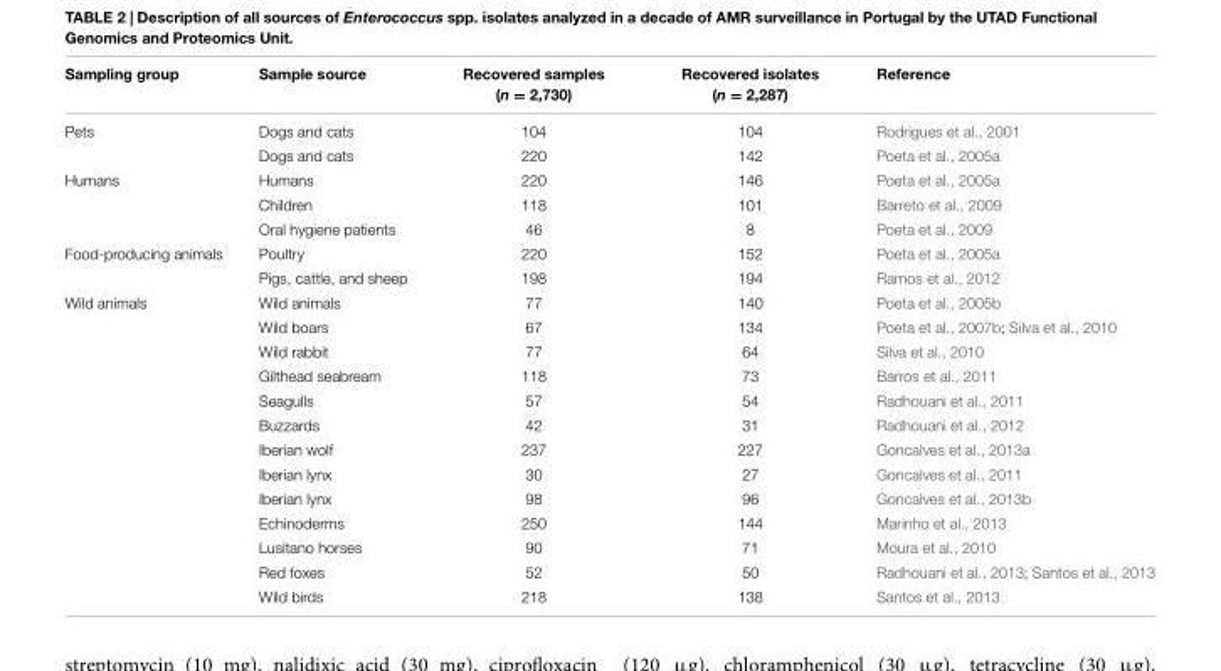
<table><thead><tr><td>Sampling group</td><td>Sample source</td><td>Recovered samples (n = 2,730)</td><td>Recovered isolates (n = 2,287)</td><td>Reference</td></tr></thead><tbody><tr><td rowspan="2">Pets</td><td>Dogs and cats</td><td>104</td><td>104</td><td>Rodrigues et al., 2001</td></tr><tr><td>Dogs and cats</td><td>220</td><td>142</td><td>Poeta et al., 2005a</td></tr><tr><td rowspan="3">Humans</td><td>Humans</td><td>220</td><td>146</td><td>Poeta et al., 2005a</td></tr><tr><td>Children</td><td>118</td><td>101</td><td>Barreto et al., 2009</td></tr><tr><td>Oral hygiene patients</td><td>46</td><td>8</td><td>Poeta et al., 2009</td></tr><tr><td rowspan="2">Food-producing animals</td><td>Poultry</td><td>220</td><td>152</td><td>Poeta et al., 2005a</td></tr><tr><td>Pigs, cattle, and sheep</td><td>198</td><td>194</td><td>Ramos et al., 2012</td></tr><tr><td rowspan="13">Wild animals</td><td>Wild animals</td><td>77</td><td>140</td><td>Poeta et al., 2005b</td></tr><tr><td>Wild boars</td><td>67</td><td>134</td><td>Poeta et al., 2007b; Silva et al., 2010</td></tr><tr><td>Wild rabbit</td><td>77</td><td>64</td><td>Silva et al., 2010</td></tr><tr><td>Gilthead seabream</td><td>118</td><td>73</td><td>Barros et al., 2011</td></tr><tr><td>Seagulls</td><td>57</td><td>54</td><td>Radhouani et al., 2011</td></tr><tr><td>Buzzards</td><td>42</td><td>31</td><td>Radhouani et al., 2012</td></tr><tr><td>Iberian wolf</td><td>237</td><td>227</td><td>Goncalves et al., 2013a</td></tr><tr><td>Iberian lynx</td><td>30</td><td>27</td><td>Goncalves et al., 2011</td></tr><tr><td>Iberian lynx</td><td>98</td><td>96</td><td>Goncalves et al., 2013b</td></tr><tr><td>Echinoderms</td><td>250</td><td>144</td><td>Marinho et al., 2013</td></tr><tr><td>Lusitano horses</td><td>90</td><td>71</td><td>Moura et al., 2010</td></tr><tr><td>Red foxes</td><td>52</td><td>50</td><td>Radhouani et al., 2013; Santos et al., 2013</td></tr><tr><td>Wild birds</td><td>218</td><td>138</td><td>Santos et al., 2013</td></tr></tbody></table>